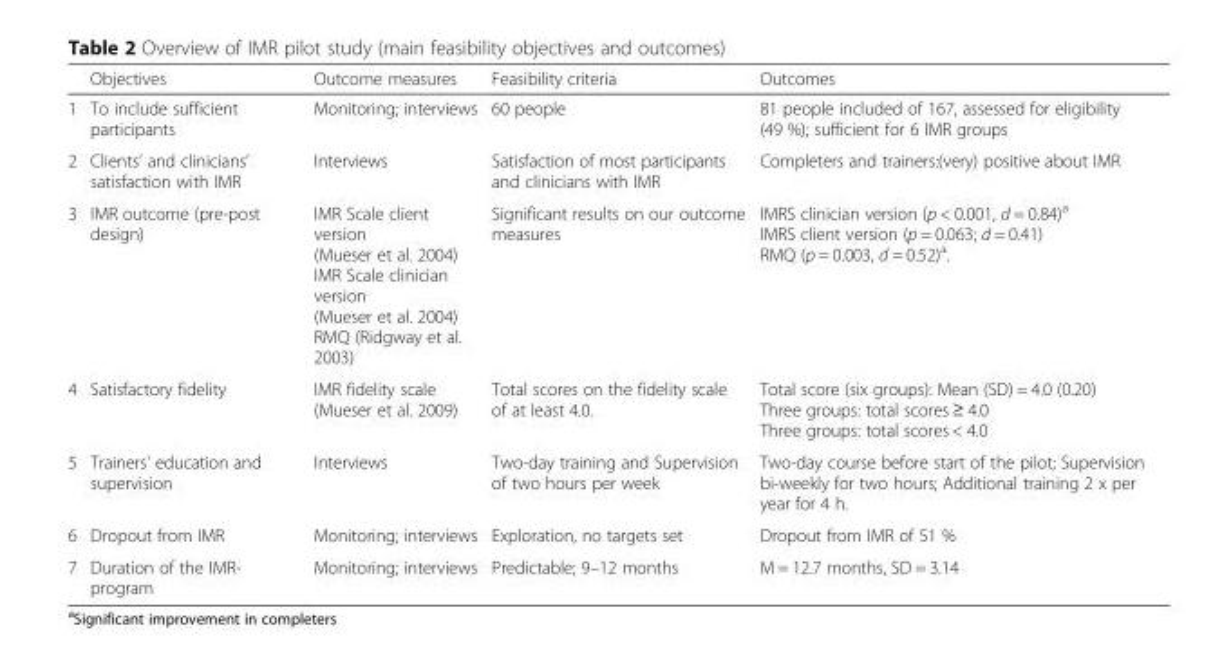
<table><thead><tr><td></td><td>Objectives</td><td>Outcome measures</td><td>Feasibility criteria</td><td>Outcomes</td></tr></thead><tbody><tr><td>1</td><td>To include sufficient participants</td><td>Monitoring; interviews</td><td>60 people</td><td>81 people included of 167, assessed for eligibility (49 %); sufficient for 6 IMR groups</td></tr><tr><td>2</td><td>Clients’ and clinicians’ satisfaction with IMR</td><td>Interviews</td><td>Satisfaction of most participants and clinicians with IMR</td><td>Completers and trainers:(very) positive about IMR</td></tr><tr><td>3</td><td>IMR outcome (pre-post design)</td><td>IMR Scale client version (Mueser et al. 2004) IMR Scale clinician version (Mueser et al. 2004) RMQ (Ridgway et al. 2003)</td><td>Significant results on our outcome measures</td><td>IMRS clinician version (p &lt; 0.001, d = 0.84)<sup>a</sup> IMRS client version (p = 0.063; d = 0.41) RMQ (p = 0.003, d = 0.52)<sup>a</sup>.</td></tr><tr><td>4</td><td>Satisfactory fidelity</td><td>IMR fidelity scale (Mueser et al. 2009)</td><td>Total scores on the fidelity scale of at least 4.0.</td><td>Total score (six groups): Mean (SD) = 4.0 (0.20) Three groups: total scores ≥ 4.0 Three groups: total scores &lt; 4.0</td></tr><tr><td>5</td><td>Trainers&#x27; education and supervision</td><td>Interviews</td><td>Two-day training and Supervision of two hours per week</td><td>Two-day course before start of the pilot; Supervision bi-weekly for two hours; Additional training 2 x per year for 4 h.</td></tr><tr><td>6</td><td>Dropout from IMR</td><td>Monitoring; interviews</td><td>Exploration, no targets set</td><td>Dropout from IMR of 51 %</td></tr><tr><td>7</td><td>Duration of the IMR- program</td><td>Monitoring; interviews</td><td>Predictable; 9–12 months</td><td>M = 12.7 months, SD = 3.14</td></tr></tbody></table>